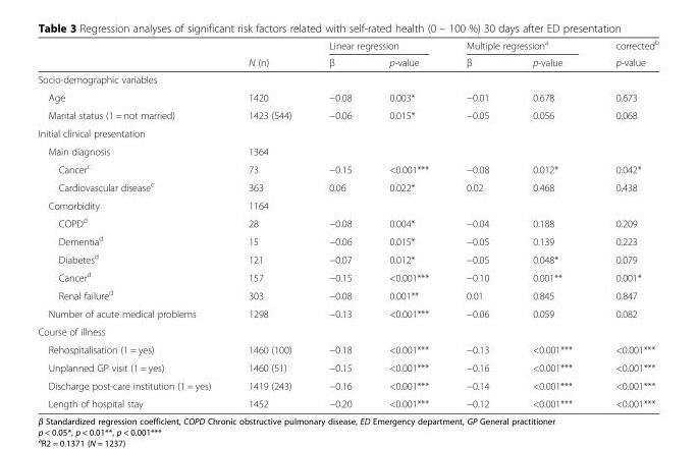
<table><thead><tr><td rowspan="2"></td><td rowspan="2">N (n)</td><td colspan="2">Linear regression</td><td colspan="2">Multiple regression<sup>a</sup></td><td rowspan="2">corrected<sup>b</sup> p-value</td></tr><tr><td>β</td><td>p-value</td><td>β</td><td>p-value</td></tr></thead><tbody><tr><td colspan="7">Socio-demographic variables</td></tr><tr><td>Age</td><td>1420</td><td>−0.08</td><td>0.003*</td><td>−0.01</td><td>0.678</td><td>0.673</td></tr><tr><td>Marital status (1 = not married)</td><td>1423 (544)</td><td>−0.06</td><td>0.015*</td><td>−0.05</td><td>0.056</td><td>0.068</td></tr><tr><td colspan="7">Initial clinical presentation</td></tr><tr><td>Main diagnosis</td><td>1364</td><td></td><td></td><td></td><td></td><td></td></tr><tr><td>Cancer<sup>c</sup></td><td>73</td><td>−0.15</td><td>&lt;0.001***</td><td>−0.08</td><td>0.012*</td><td>0.042*</td></tr><tr><td>Cardiovascular disease<sup>c</sup></td><td>363</td><td>0.06</td><td>0.022*</td><td>0.02</td><td>0.468</td><td>0.438</td></tr><tr><td>Comorbidity</td><td>1164</td><td></td><td></td><td></td><td></td><td></td></tr><tr><td>COPD<sup>d</sup></td><td>28</td><td>−0.08</td><td>0.004*</td><td>−0.04</td><td>0.188</td><td>0.209</td></tr><tr><td>Dementia<sup>d</sup></td><td>15</td><td>−0.06</td><td>0.015*</td><td>−0.05</td><td>0.139</td><td>0.223</td></tr><tr><td>Diabetes<sup>d</sup></td><td>121</td><td>−0.07</td><td>0.012*</td><td>−0.05</td><td>0.048*</td><td>0.079</td></tr><tr><td>Cancer<sup>d</sup></td><td>157</td><td>−0.15</td><td>&lt;0.001***</td><td>−0.10</td><td>0.001**</td><td>0.001*</td></tr><tr><td>Renal failure<sup>d</sup></td><td>303</td><td>−0.08</td><td>0.001**</td><td>0.01</td><td>0.845</td><td>0.847</td></tr><tr><td>Number of acute medical problems</td><td>1298</td><td>−0.13</td><td>&lt;0.001***</td><td>−0.06</td><td>0.059</td><td>0.082</td></tr><tr><td colspan="7">Course of illness</td></tr><tr><td>Rehospitalisation (1 = yes)</td><td>1460 (100)</td><td>−0.18</td><td>&lt;0.001***</td><td>−0.13</td><td>&lt;0.001***</td><td>&lt;0.001***</td></tr><tr><td>Unplanned GP visit (1 = yes)</td><td>1460 (51)</td><td>−0.15</td><td>&lt;0.001***</td><td>−0.16</td><td>&lt;0.001***</td><td>&lt;0.001***</td></tr><tr><td>Discharge post-care institution (1 = yes)</td><td>1419 (243)</td><td>−0.16</td><td>&lt;0.001***</td><td>−0.14</td><td>&lt;0.001***</td><td>&lt;0.001***</td></tr><tr><td>Length of hospital stay</td><td>1452</td><td>−0.20</td><td>&lt;0.001***</td><td>−0.12</td><td>&lt;0.001***</td><td>&lt;0.001***</td></tr></tbody></table>